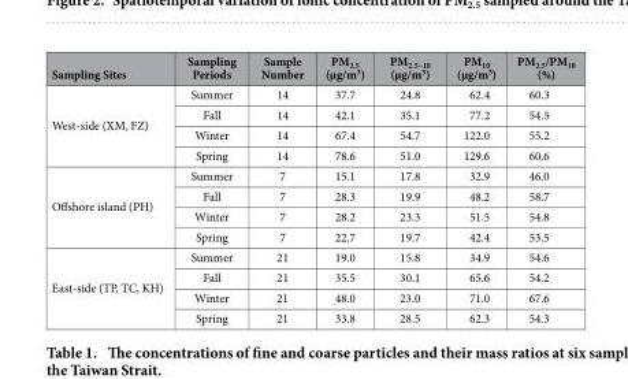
<table><thead><tr><td>Sampling Sites</td><td>Sampling Periods</td><td>Sample Number</td><td>PM<sub>2.5</sub> (μg/m<sup>3</sup>)</td><td>PM<sub>2.5~10</sub> (μg/m<sup>3</sup>)</td><td>PM<sub>10</sub> (μg/m<sup>3</sup>)</td><td>PM<sub>2.5</sub>/PM<sub>10</sub> (%)</td></tr></thead><tbody><tr><td rowspan="4">West-side (XM, FZ)</td><td>Summer</td><td>14</td><td>37.7</td><td>24.8</td><td>62.4</td><td>60.3</td></tr><tr><td>Fall</td><td>14</td><td>42.1</td><td>35.1</td><td>77.2</td><td>54.5</td></tr><tr><td>Winter</td><td>14</td><td>67.4</td><td>54.7</td><td>122.0</td><td>55.2</td></tr><tr><td>Spring</td><td>14</td><td>78.6</td><td>51.0</td><td>129.6</td><td>60.6</td></tr><tr><td rowspan="4">Offshore island (PH)</td><td>Summer</td><td>7</td><td>15.1</td><td>17.8</td><td>32.9</td><td>46.0</td></tr><tr><td>Fall</td><td>7</td><td>28.3</td><td>19.9</td><td>48.2</td><td>58.7</td></tr><tr><td>Winter</td><td>7</td><td>28.2</td><td>23.3</td><td>51.5</td><td>54.8</td></tr><tr><td>Spring</td><td>7</td><td>22.7</td><td>19.7</td><td>42.4</td><td>53.5</td></tr><tr><td rowspan="4">East-side (TP, TC, KH)</td><td>Summer</td><td>21</td><td>19.0</td><td>15.8</td><td>34.9</td><td>54.6</td></tr><tr><td>Fall</td><td>21</td><td>35.5</td><td>30.1</td><td>65.6</td><td>54.2</td></tr><tr><td>Winter</td><td>21</td><td>48.0</td><td>23.0</td><td>71.0</td><td>67.6</td></tr><tr><td>Spring</td><td>21</td><td>33.8</td><td>28.5</td><td>62.3</td><td>54.3</td></tr></tbody></table>